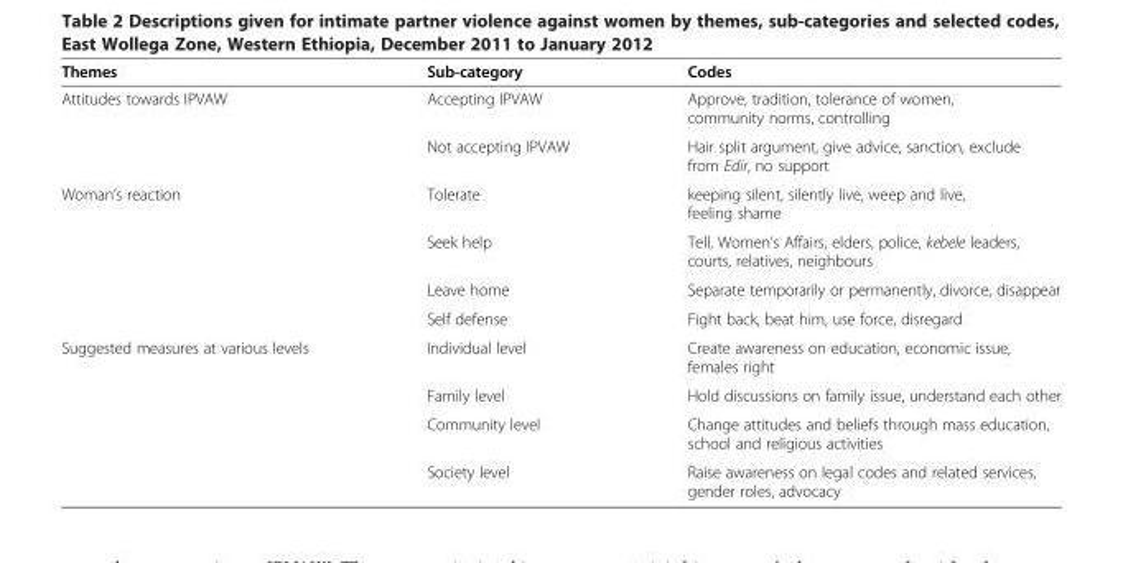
<table><thead><tr><td>Themes</td><td>Sub-category</td><td>Codes</td></tr></thead><tbody><tr><td rowspan="2">Attitudes towards IPVAW</td><td>Accepting IPVAW</td><td>Approve, tradition, tolerance of women, community norms, controlling</td></tr><tr><td>Not accepting IPVAW</td><td>Hair split argument, give advice, sanction, exclude from Edir, no support</td></tr><tr><td rowspan="4">Woman’s reaction</td><td>Tolerate</td><td>keeping silent, silently live, weep and live, feeling shame</td></tr><tr><td>Seek help</td><td>Tell, Women’s Affairs, elders, police, kebele leaders, courts, relatives, neighbours</td></tr><tr><td>Leave home</td><td>Separate temporarily or permanently, divorce, disappear</td></tr><tr><td>Self defense</td><td>Fight back, beat him, use force, disregard</td></tr><tr><td rowspan="4">Suggested measures at various levels</td><td>Individual level</td><td>Create awareness on education, economic issue, females right</td></tr><tr><td>Family level</td><td>Hold discussions on family issue, understand each other</td></tr><tr><td>Community level</td><td>Change attitudes and beliefs through mass education, school and religious activities</td></tr><tr><td>Society level</td><td>Raise awareness on legal codes and related services, gender roles, advocacy</td></tr></tbody></table>